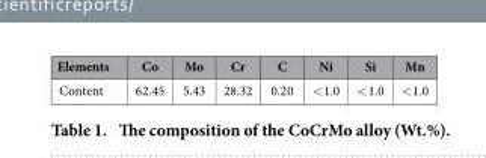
<table><thead><tr><td>Elements</td><td>Co</td><td>Mo</td><td>Cr</td><td>C</td><td>Ni</td><td>Si</td><td>Mn</td></tr></thead><tbody><tr><td>Content</td><td>62.45</td><td>5.43</td><td>28.32</td><td>0.20</td><td>&lt; 1.0</td><td>&lt; 1.0</td><td>&lt; 1.0</td></tr></tbody></table>